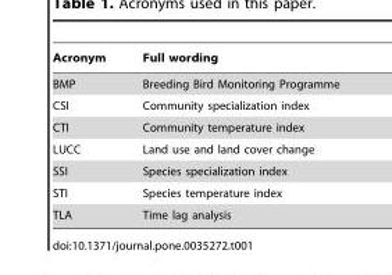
<table><thead><tr><td>Acronym</td><td>Full wording</td></tr></thead><tbody><tr><td>BMP</td><td>Breeding Bird Monitoring Programme</td></tr><tr><td>CSI</td><td>Community specialization index</td></tr><tr><td>CTI</td><td>Community temperature index</td></tr><tr><td>LUCC</td><td>Land use and land cover change</td></tr><tr><td>SSI</td><td>Species specialization index</td></tr><tr><td>STI</td><td>Species temperature index</td></tr><tr><td>TLA</td><td>Time lag analysis</td></tr></tbody></table>